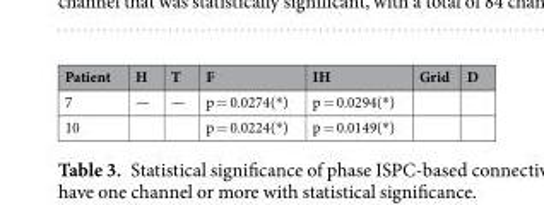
<table><thead><tr><td>Patient</td><td>H</td><td>T</td><td>F</td><td>IH</td><td>Grid</td><td>D</td></tr></thead><tbody><tr><td>7</td><td>—</td><td>—</td><td>p = 0.0274(*)</td><td>p = 0.0294(*)</td><td></td><td></td></tr><tr><td>10</td><td></td><td></td><td>p = 0.0224(*)</td><td>p = 0.0149(*)</td><td></td><td></td></tr></tbody></table>